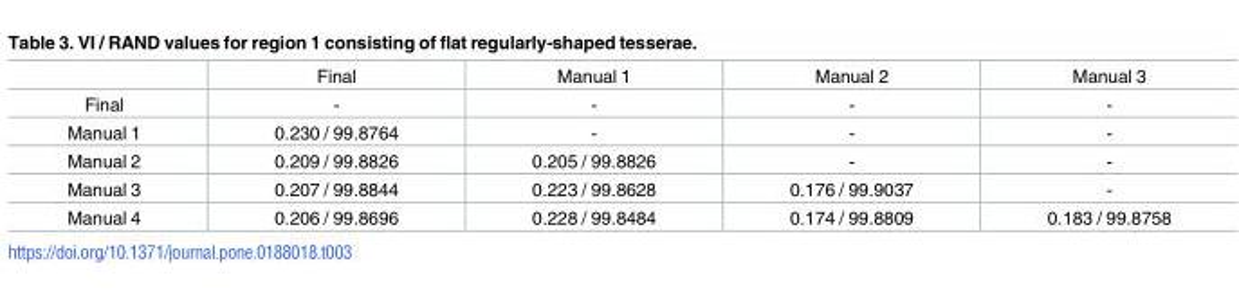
<table><thead><tr><td></td><td>Final</td><td>Manual 1</td><td>Manual 2</td><td>Manual 3</td></tr></thead><tbody><tr><td>Final</td><td>-</td><td>-</td><td>-</td><td>-</td></tr><tr><td>Manual 1</td><td>0.230 / 99.8764</td><td>-</td><td>-</td><td>-</td></tr><tr><td>Manual 2</td><td>0.209 / 99.8826</td><td>0.205 / 99.8826</td><td>-</td><td>-</td></tr><tr><td>Manual 3</td><td>0.207 / 99.8844</td><td>0.223 / 99.8628</td><td>0.176 / 99.9037</td><td>-</td></tr><tr><td>Manual 4</td><td>0.206 / 99.8696</td><td>0.228 / 99.8484</td><td>0.174 / 99.8809</td><td>0.183 / 99.8758</td></tr></tbody></table>